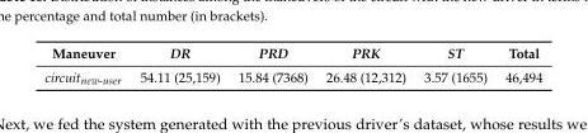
<table><thead><tr><td>Maneuver</td><td>DR</td><td>PRD</td><td>PRK</td><td>ST</td><td>Total</td></tr></thead><tbody><tr><td>circuit<sub>new-user</sub></td><td>54.11 (25,159)</td><td>15.84 (7368)</td><td>26.48 (12,312)</td><td>3.57 (1655)</td><td>46,494</td></tr></tbody></table>